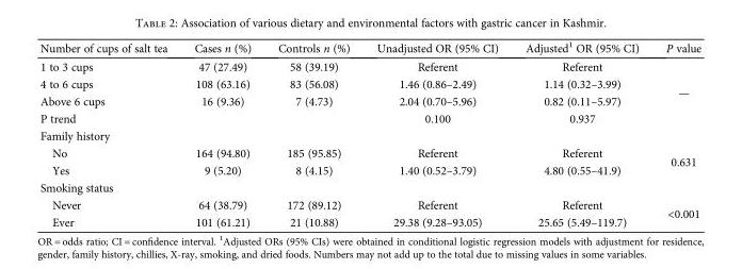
<table><thead><tr><td>Number of cups of salt tea</td><td>Cases n (%)</td><td>Controls n (%)</td><td>Unadjusted OR (95% CI)</td><td>Adjusted<sup>1</sup> OR (95% CI)</td><td>P value</td></tr></thead><tbody><tr><td>1 to 3 cups</td><td>47 (27.49)</td><td>58 (39.19)</td><td>Referent</td><td>Referent</td><td rowspan="4">—</td></tr><tr><td>4 to 6 cups</td><td>108 (63.16)</td><td>83 (56.08)</td><td>1.46 (0.86–2.49)</td><td>1.14 (0.32–3.99)</td></tr><tr><td>Above 6 cups</td><td>16 (9.36)</td><td>7 (4.73)</td><td>2.04 (0.70–5.96)</td><td>0.82 (0.11–5.97)</td></tr><tr><td>P trend</td><td></td><td></td><td>0.100</td><td>0.937</td></tr><tr><td colspan="6">Family history</td></tr><tr><td>No</td><td>164 (94.80)</td><td>185 (95.85)</td><td>Referent</td><td>Referent</td><td rowspan="2">0.631</td></tr><tr><td>Yes</td><td>9 (5.20)</td><td>8 (4.15)</td><td>1.40 (0.52–3.79)</td><td>4.80 (0.55–41.9)</td></tr><tr><td colspan="6">Smoking status</td></tr><tr><td>Never</td><td>64 (38.79)</td><td>172 (89.12)</td><td>Referent</td><td>Referent</td><td rowspan="2">&lt;0.001</td></tr><tr><td>Ever</td><td>101 (61.21)</td><td>21 (10.88)</td><td>29.38 (9.28–93.05)</td><td>25.65 (5.49–119.7)</td></tr></tbody></table>